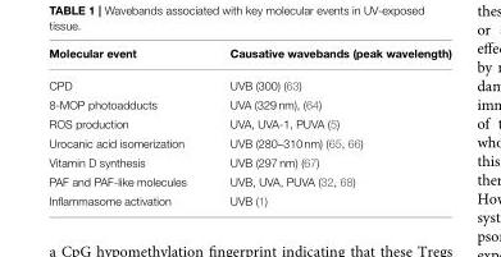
<table><thead><tr><td>Molecular event</td><td>Causative wavebands (peak wavelength)</td></tr></thead><tbody><tr><td>CPD</td><td>UVB (300) (63)</td></tr><tr><td>8-MOP photoadducts</td><td>UVA (329 nm), (64)</td></tr><tr><td>ROS production</td><td>UVA, UVA-1, PUVA (5)</td></tr><tr><td>Urocanic acid isomerization</td><td>UVB (280–310 nm) (65, 66)</td></tr><tr><td>Vitamin D synthesis</td><td>UVB (297 nm) (67)</td></tr><tr><td>PAF and PAF-like molecules</td><td>UVB, UVA, PUVA (32, 68)</td></tr><tr><td>Inflammasome activation</td><td>UVB (1)</td></tr></tbody></table>